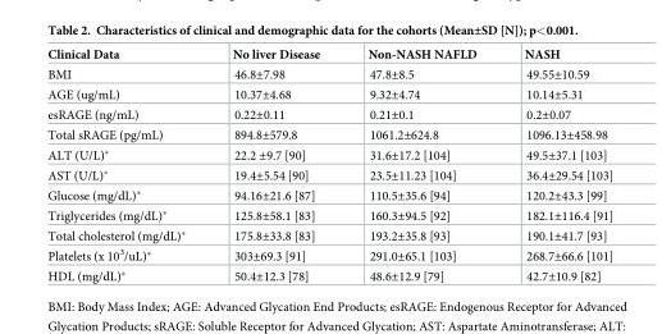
<table><thead><tr><td>Clinical Data</td><td>No liver Disease</td><td>Non-NASH NAFLD</td><td>NASH</td></tr></thead><tbody><tr><td>BMI</td><td>46.8±7.98</td><td>47.8±8.5</td><td>49.55±10.59</td></tr><tr><td>AGE (ug/mL)</td><td>10.37±4.68</td><td>9.32±4.74</td><td>10.14±5.31</td></tr><tr><td>esRAGE (ng/mL)</td><td>0.22±0.11</td><td>0.21±0.1</td><td>0.2±0.07</td></tr><tr><td>Total sRAGE (pg/mL)</td><td>894.8±579.8</td><td>1061.2±624.8</td><td>1096.13±458.98</td></tr><tr><td>ALT (U/L)*</td><td>22.2 ±9.7 [90]</td><td>31.6±17.2 [104]</td><td>49.5±37.1 [103]</td></tr><tr><td>AST (U/L)*</td><td>19.4±5.54 [90]</td><td>23.5±11.23 [104]</td><td>36.4±29.54 [103]</td></tr><tr><td>Glucose (mg/dL)*</td><td>94.16±21.6 [87]</td><td>110.5±35.6 [94]</td><td>120.2±43.3 [99]</td></tr><tr><td>Triglycerides (mg/dL)*</td><td>125.8±58.1 [83]</td><td>160.3±94.5 [92]</td><td>182.1±116.4 [91]</td></tr><tr><td>Total cholesterol (mg/dL)*</td><td>175.8±33.8 [83]</td><td>193.2±35.8 [93]</td><td>190.1±41.7 [93]</td></tr><tr><td>Platelets (x 10<sup>3</sup>/uL)*</td><td>303±69.3 [91]</td><td>291.0±65.1 [103]</td><td>268.7±66.6 [101]</td></tr><tr><td>HDL (mg/dL)*</td><td>50.4±12.3 [78]</td><td>48.6±12.9 [79]</td><td>42.7±10.9 [82]</td></tr></tbody></table>